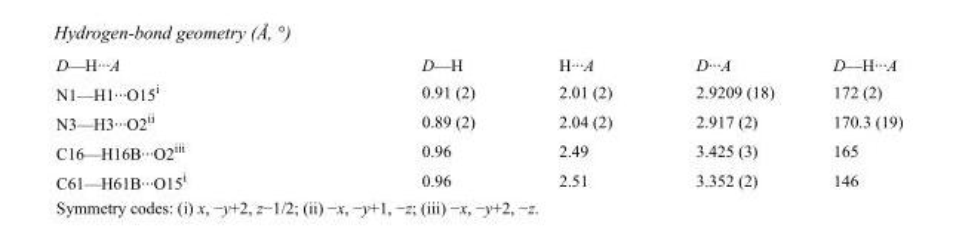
<table><tbody><tr><td>D—H···A</td><td>D—H</td><td>H···A</td><td>D···A</td><td>D—H···A</td></tr><tr><td>N1—H1···O15<sup>i</sup></td><td>0.91 (2)</td><td>2.01 (2)</td><td>2.9209 (18)</td><td>172 (2)</td></tr><tr><td>N3—H3···O2<sup>ii</sup></td><td>0.89 (2)</td><td>2.04 (2)</td><td>2.917 (2)</td><td>170.3 (19)</td></tr><tr><td>C16—H16B···O2<sup>iii</sup></td><td>0.96</td><td>2.49</td><td>3.425 (3)</td><td>165</td></tr><tr><td>C61—H61B···O15<sup>i</sup></td><td>0.96</td><td>2.51</td><td>3.352 (2)</td><td>146</td></tr></tbody></table>